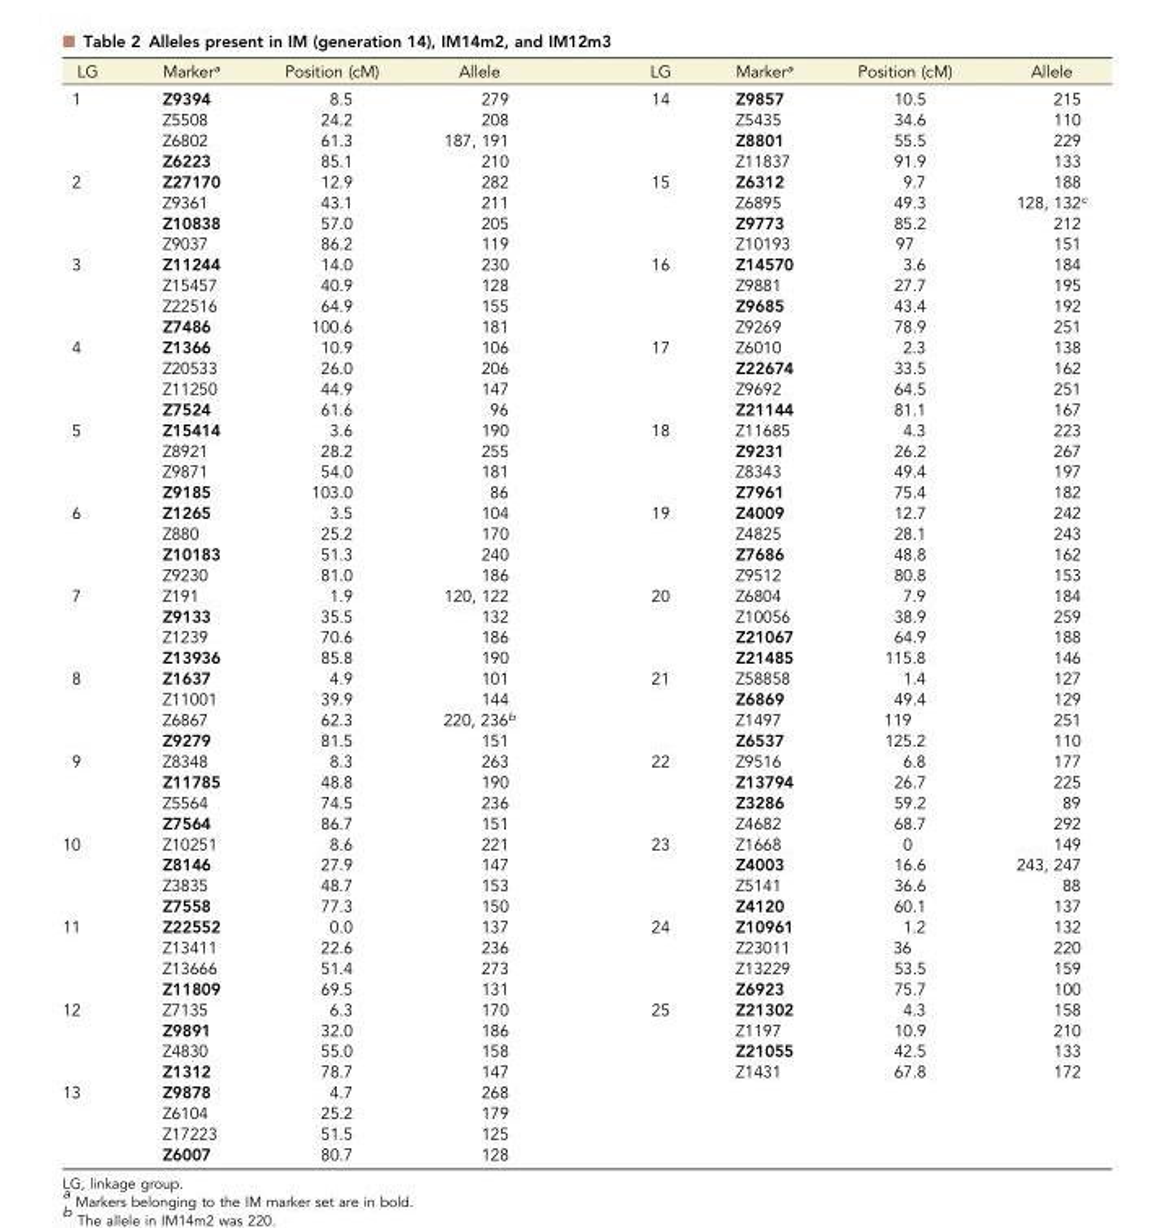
<table><thead><tr><td>LG</td><td>Marker<sup>a</sup></td><td>Position (cM)</td><td>Allele</td><td>LG</td><td>Marker<sup>a</sup></td><td>Position (cM)</td><td>Allele</td></tr></thead><tbody><tr><td rowspan="4">1</td><td>Z9394</td><td>8.5</td><td>279</td><td>14</td><td>Z9857</td><td>10.5</td><td>215</td></tr><tr><td>Z5508</td><td>24.2</td><td>208</td><td></td><td>Z5435</td><td>34.6</td><td>110</td></tr><tr><td>Z6802</td><td>61.3</td><td>187, 191</td><td></td><td>Z8801</td><td>55.5</td><td>229</td></tr><tr><td>Z6223</td><td>85.1</td><td>210</td><td></td><td>Z11837</td><td>91.9</td><td>133</td></tr><tr><td rowspan="4">2</td><td>Z27170</td><td>12.9</td><td>282</td><td>15</td><td>Z6312</td><td>9.7</td><td>188</td></tr><tr><td>Z9361</td><td>43.1</td><td>211</td><td></td><td>Z6895</td><td>49.3</td><td>128, 132<sup>c</sup></td></tr><tr><td>Z10838</td><td>57.0</td><td>205</td><td></td><td>Z9773</td><td>85.2</td><td>212</td></tr><tr><td>Z9037</td><td>86.2</td><td>119</td><td></td><td>Z10193</td><td>97</td><td>151</td></tr><tr><td rowspan="4">3</td><td>Z11244</td><td>14.0</td><td>230</td><td>16</td><td>Z14570</td><td>3.6</td><td>184</td></tr><tr><td>Z15457</td><td>40.9</td><td>128</td><td></td><td>Z9881</td><td>27.7</td><td>195</td></tr><tr><td>Z22516</td><td>64.9</td><td>155</td><td></td><td>Z9685</td><td>43.4</td><td>192</td></tr><tr><td>Z7486</td><td>100.6</td><td>181</td><td></td><td>Z9269</td><td>78.9</td><td>251</td></tr><tr><td rowspan="4">4</td><td>Z1366</td><td>10.9</td><td>106</td><td>17</td><td>Z6010</td><td>2.3</td><td>138</td></tr><tr><td>Z20533</td><td>26.0</td><td>206</td><td></td><td>Z22674</td><td>33.5</td><td>162</td></tr><tr><td>Z11250</td><td>44.9</td><td>147</td><td></td><td>Z9692</td><td>64.5</td><td>251</td></tr><tr><td>Z7524</td><td>61.6</td><td>96</td><td></td><td>Z21144</td><td>81.1</td><td>167</td></tr><tr><td rowspan="4">5</td><td>Z15414</td><td>3.6</td><td>190</td><td>18</td><td>Z11685</td><td>4.3</td><td>223</td></tr><tr><td>Z8921</td><td>28.2</td><td>255</td><td></td><td>Z9231</td><td>26.2</td><td>267</td></tr><tr><td>Z9871</td><td>54.0</td><td>181</td><td></td><td>Z8343</td><td>49.4</td><td>197</td></tr><tr><td>Z9185</td><td>103.0</td><td>86</td><td></td><td>Z7961</td><td>75.4</td><td>182</td></tr><tr><td rowspan="4">6</td><td>Z1265</td><td>3.5</td><td>104</td><td>19</td><td>Z4009</td><td>12.7</td><td>242</td></tr><tr><td>Z880</td><td>25.2</td><td>170</td><td></td><td>Z4825</td><td>28.1</td><td>243</td></tr><tr><td>Z10183</td><td>51.3</td><td>240</td><td></td><td>Z7686</td><td>48.8</td><td>162</td></tr><tr><td>Z9230</td><td>81.0</td><td>186</td><td></td><td>Z9512</td><td>80.8</td><td>153</td></tr><tr><td rowspan="4">7</td><td>Z191</td><td>1.9</td><td>120, 122</td><td>20</td><td>Z6804</td><td>7.9</td><td>184</td></tr><tr><td>Z9133</td><td>35.5</td><td>132</td><td></td><td>Z10056</td><td>38.9</td><td>259</td></tr><tr><td>Z1239</td><td>70.6</td><td>186</td><td></td><td>Z21067</td><td>64.9</td><td>188</td></tr><tr><td>Z13936</td><td>85.8</td><td>190</td><td></td><td>Z21485</td><td>115.8</td><td>146</td></tr><tr><td rowspan="4">8</td><td>Z1637</td><td>4.9</td><td>101</td><td>21</td><td>Z58858</td><td>1.4</td><td>127</td></tr><tr><td>Z11001</td><td>39.9</td><td>144</td><td></td><td>Z6869</td><td>49.4</td><td>129</td></tr><tr><td>Z6867</td><td>62.3</td><td>220, 236<sup>b</sup></td><td></td><td>Z1497</td><td>119</td><td>251</td></tr><tr><td>Z9279</td><td>81.5</td><td>151</td><td></td><td>Z6537</td><td>125.2</td><td>110</td></tr><tr><td rowspan="4">9</td><td>Z8348</td><td>8.3</td><td>263</td><td>22</td><td>Z9516</td><td>6.8</td><td>177</td></tr><tr><td>Z11785</td><td>48.8</td><td>190</td><td></td><td>Z13794</td><td>26.7</td><td>225</td></tr><tr><td>Z5564</td><td>74.5</td><td>236</td><td></td><td>Z3286</td><td>59.2</td><td>89</td></tr><tr><td>Z7564</td><td>86.7</td><td>151</td><td></td><td>Z4682</td><td>68.7</td><td>292</td></tr><tr><td rowspan="4">10</td><td>Z10251</td><td>8.6</td><td>221</td><td>23</td><td>Z1668</td><td>0</td><td>149</td></tr><tr><td>Z8146</td><td>27.9</td><td>147</td><td></td><td>Z4003</td><td>16.6</td><td>243, 247</td></tr><tr><td>Z3835</td><td>48.7</td><td>153</td><td></td><td>Z5141</td><td>36.6</td><td>88</td></tr><tr><td>Z7558</td><td>77.3</td><td>150</td><td></td><td>Z4120</td><td>60.1</td><td>137</td></tr><tr><td rowspan="4">11</td><td>Z22552</td><td>0.0</td><td>137</td><td>24</td><td>Z10961</td><td>1.2</td><td>132</td></tr><tr><td>Z13411</td><td>22.6</td><td>236</td><td></td><td>Z23011</td><td>36</td><td>220</td></tr><tr><td>Z13666</td><td>51.4</td><td>273</td><td></td><td>Z13229</td><td>53.5</td><td>159</td></tr><tr><td>Z11809</td><td>69.5</td><td>131</td><td></td><td>Z6923</td><td>75.7</td><td>100</td></tr><tr><td rowspan="4">12</td><td>Z7135</td><td>6.3</td><td>170</td><td>25</td><td>Z21302</td><td>4.3</td><td>158</td></tr><tr><td>Z9891</td><td>32.0</td><td>186</td><td></td><td>Z1197</td><td>10.9</td><td>210</td></tr><tr><td>Z4830</td><td>55.0</td><td>158</td><td></td><td>Z21055</td><td>42.5</td><td>133</td></tr><tr><td>Z1312</td><td>78.7</td><td>147</td><td></td><td>Z1431</td><td>67.8</td><td>172</td></tr><tr><td rowspan="4">13</td><td>Z9878</td><td>4.7</td><td>268</td><td rowspan="4" colspan="4"></td></tr><tr><td>Z6104</td><td>25.2</td><td>179</td></tr><tr><td>Z17223</td><td>51.5</td><td>125</td></tr><tr><td>Z6007</td><td>80.7</td><td>128</td></tr></tbody></table>